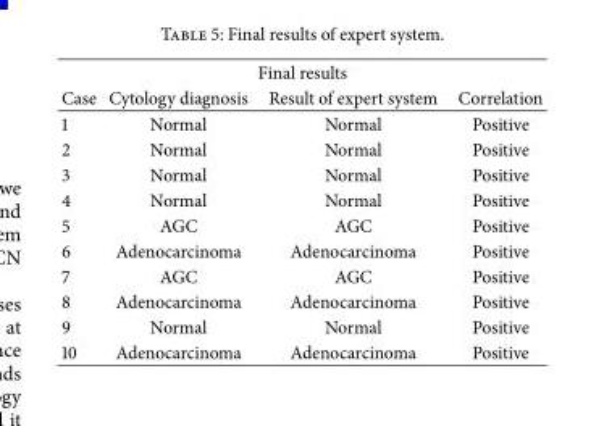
<table><thead><tr><td colspan="4">Final results</td></tr><tr><td>Case</td><td>Cytology diagnosis</td><td>Result of expert system</td><td>Correlation</td></tr></thead><tbody><tr><td>1</td><td>Normal</td><td>Normal</td><td>Positive</td></tr><tr><td>2</td><td>Normal</td><td>Normal</td><td>Positive</td></tr><tr><td>3</td><td>Normal</td><td>Normal</td><td>Positive</td></tr><tr><td>4</td><td>Normal</td><td>Normal</td><td>Positive</td></tr><tr><td>5</td><td>AGC</td><td>AGC</td><td>Positive</td></tr><tr><td>6</td><td>Adenocarcinoma</td><td>Adenocarcinoma</td><td>Positive</td></tr><tr><td>7</td><td>AGC</td><td>AGC</td><td>Positive</td></tr><tr><td>8</td><td>Adenocarcinoma</td><td>Adenocarcinoma</td><td>Positive</td></tr><tr><td>9</td><td>Normal</td><td>Normal</td><td>Positive</td></tr><tr><td>10</td><td>Adenocarcinoma</td><td>Adenocarcinoma</td><td>Positive</td></tr></tbody></table>